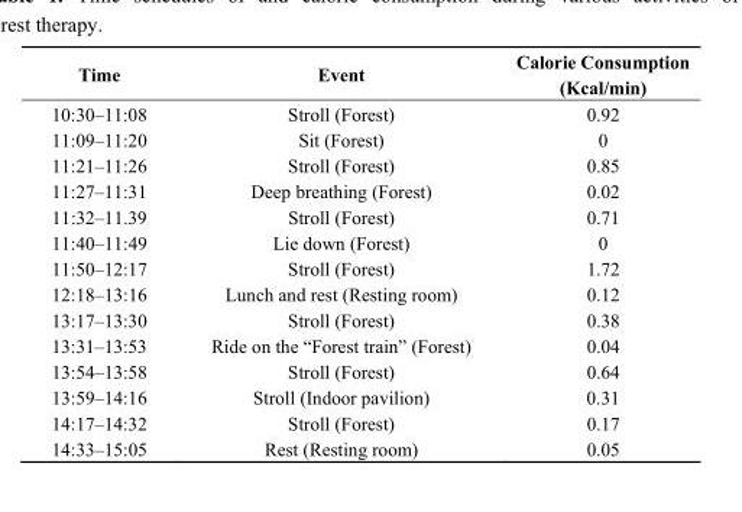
<table><thead><tr><td>Time</td><td>Event</td><td>Calorie Consumption (Kcal/min)</td></tr></thead><tbody><tr><td>10:30–11:08</td><td>Stroll (Forest)</td><td>0.92</td></tr><tr><td>11:09–11:20</td><td>Sit (Forest)</td><td>0</td></tr><tr><td>11:21–11:26</td><td>Stroll (Forest)</td><td>0.85</td></tr><tr><td>11:27–11:31</td><td>Deep breathing (Forest)</td><td>0.02</td></tr><tr><td>11:32–11.39</td><td>Stroll (Forest)</td><td>0.71</td></tr><tr><td>11:40–11:49</td><td>Lie down (Forest)</td><td>0</td></tr><tr><td>11:50–12:17</td><td>Stroll (Forest)</td><td>1.72</td></tr><tr><td>12:18–13:16</td><td>Lunch and rest (Resting room)</td><td>0.12</td></tr><tr><td>13:17–13:30</td><td>Stroll (Forest)</td><td>0.38</td></tr><tr><td>13:31–13:53</td><td>Ride on the “Forest train” (Forest)</td><td>0.04</td></tr><tr><td>13:54–13:58</td><td>Stroll (Forest)</td><td>0.64</td></tr><tr><td>13:59–14:16</td><td>Stroll (Indoor pavilion)</td><td>0.31</td></tr><tr><td>14:17–14:32</td><td>Stroll (Forest)</td><td>0.17</td></tr><tr><td>14:33–15:05</td><td>Rest (Resting room)</td><td>0.05</td></tr></tbody></table>